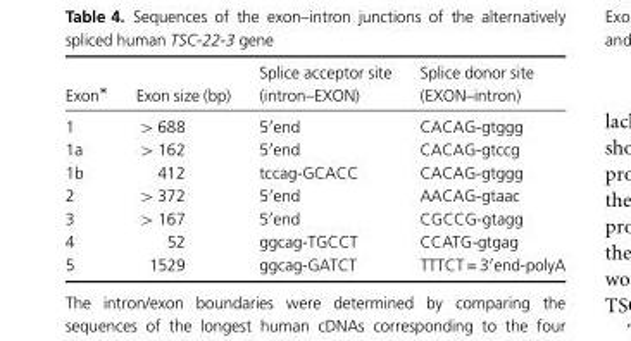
<table><thead><tr><td>Exon*</td><td>Exon size (bp)</td><td>Splice acceptor site (intron–EXON)</td><td>Splice donor site (EXON–intron)</td></tr></thead><tbody><tr><td>1</td><td>&gt; 688</td><td>5′end</td><td>CACAG-gtggg</td></tr><tr><td>1a</td><td>&gt; 162</td><td>5′end</td><td>CACAG-gtccg</td></tr><tr><td>1b</td><td>412</td><td>tccag-GCACC</td><td>CACAG-gtggg</td></tr><tr><td>2</td><td>&gt; 372</td><td>5′end</td><td>AACAG-gtaac</td></tr><tr><td>3</td><td>&gt; 167</td><td>5′end</td><td>CGCCG-gtagg</td></tr><tr><td>4</td><td>52</td><td>ggcag-TGCCT</td><td>CCATG-gtgag</td></tr><tr><td>5</td><td>1529</td><td>ggcag-GATCT</td><td>TTTCT = 3′end-polyA</td></tr></tbody></table>